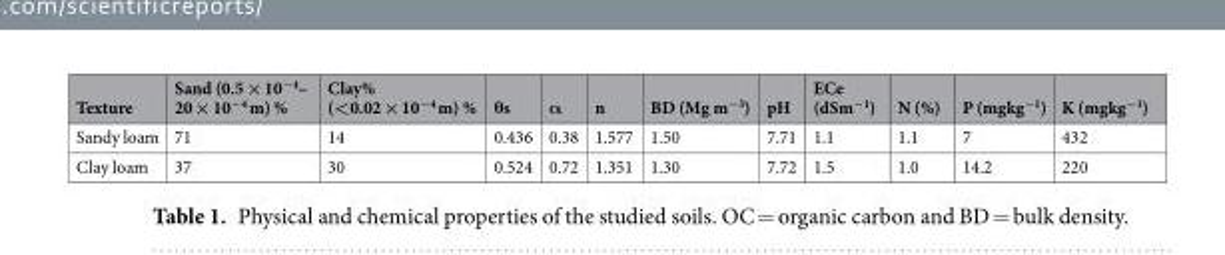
<table><thead><tr><td>Texture</td><td>Sand (0.5 × 10<sup>−4</sup>– 20 × 10<sup>−4</sup> m) %</td><td>Clay% (&lt;0.02 × 10<sup>−4</sup> m) %</td><td>θs</td><td>α</td><td>n</td><td>BD (Mg m<sup>−3</sup>)</td><td>pH</td><td>ECe (dSm<sup>−1</sup>)</td><td>N (%)</td><td>P (mgkg<sup>−1</sup>)</td><td>K (mgkg<sup>−1</sup>)</td></tr></thead><tbody><tr><td>Sandy loam</td><td>71</td><td>14</td><td>0.436</td><td>0.38</td><td>1.577</td><td>1.50</td><td>7.71</td><td>1.1</td><td>1.1</td><td>7</td><td>432</td></tr><tr><td>Clay loam</td><td>37</td><td>30</td><td>0.524</td><td>0.72</td><td>1.351</td><td>1.30</td><td>7.72</td><td>1.5</td><td>1.0</td><td>14.2</td><td>220</td></tr></tbody></table>